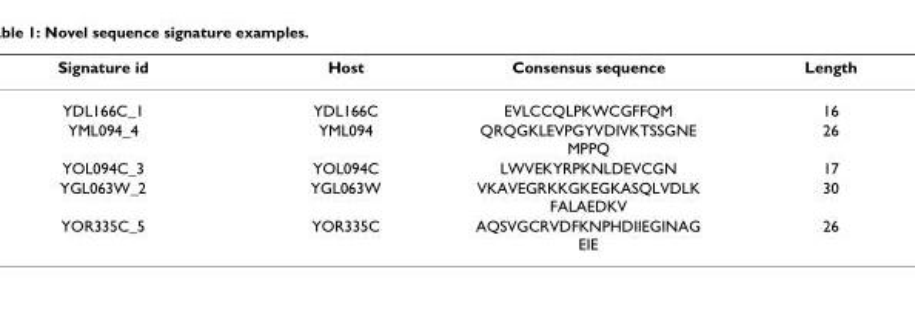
<table><thead><tr><td>Signature id</td><td>Host</td><td>Consensus sequence</td><td>Length</td></tr></thead><tbody><tr><td>YDL166C_1</td><td>YDL166C</td><td>EVLCCQLPKWCGFFQM</td><td>16</td></tr><tr><td>YML094_4</td><td>YML094</td><td>QRQGKLEVPGYVDIVKTSSGNE MPPQ</td><td>26</td></tr><tr><td>YOL094C_3</td><td>YOL094C</td><td>LWVEKYRPKNLDEVCGN</td><td>17</td></tr><tr><td>YGL063W_2</td><td>YGL063W</td><td>VKAVEGRKKGKEGKASQLVDLK FALAEDKV</td><td>30</td></tr><tr><td>YOR335C_5</td><td>YOR335C</td><td>AQSVGCRVDFKNPHDIIEGINAG EIE</td><td>26</td></tr></tbody></table>